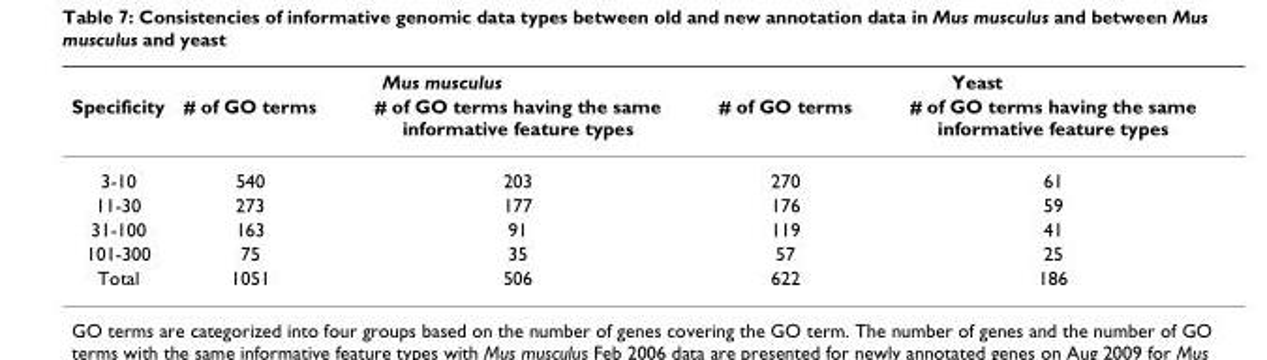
<table><thead><tr><td rowspan="2">Specificity</td><td colspan="2">Mus musculus</td><td colspan="2">Yeast</td></tr><tr><td># of GO terms</td><td># of GO terms having the same informative feature types</td><td># of GO terms</td><td># of GO terms having the same informative feature types</td></tr></thead><tbody><tr><td>3-10</td><td>540</td><td>203</td><td>270</td><td>61</td></tr><tr><td>11-30</td><td>273</td><td>177</td><td>176</td><td>59</td></tr><tr><td>31-100</td><td>163</td><td>91</td><td>119</td><td>41</td></tr><tr><td>101-300</td><td>75</td><td>35</td><td>57</td><td>25</td></tr><tr><td>Total</td><td>1051</td><td>506</td><td>622</td><td>186</td></tr></tbody></table>